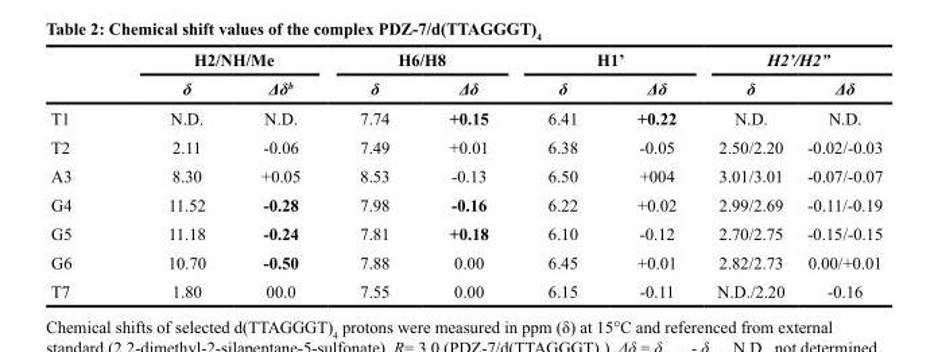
<table><thead><tr><td rowspan="2"></td><td colspan="2">H2/NH/Me</td><td colspan="2">H6/H8</td><td colspan="2">H1’</td><td colspan="2">H2’/H2”</td></tr><tr><td>δ</td><td>Δδ<sup>b</sup></td><td>δ</td><td>Δδ</td><td>δ</td><td>Δδ</td><td>δ</td><td>Δδ</td></tr></thead><tbody><tr><td>T1</td><td>N.D.</td><td>N.D.</td><td>7.74</td><td>+0.15</td><td>6.41</td><td>+0.22</td><td>N.D.</td><td>N.D.</td></tr><tr><td>T2</td><td>2.11</td><td>-0.06</td><td>7.49</td><td>+0.01</td><td>6.38</td><td>-0.05</td><td>2.50/2.20</td><td>-0.02/-0.03</td></tr><tr><td>A3</td><td>8.30</td><td>+0.05</td><td>8.53</td><td>-0.13</td><td>6.50</td><td>+004</td><td>3.01/3.01</td><td>-0.07/-0.07</td></tr><tr><td>G4</td><td>11.52</td><td>-0.28</td><td>7.98</td><td>-0.16</td><td>6.22</td><td>+0.02</td><td>2.99/2.69</td><td>-0.11/-0.19</td></tr><tr><td>G5</td><td>11.18</td><td>-0.24</td><td>7.81</td><td>+0.18</td><td>6.10</td><td>-0.12</td><td>2.70/2.75</td><td>-0.15/-0.15</td></tr><tr><td>G6</td><td>10.70</td><td>-0.50</td><td>7.88</td><td>0.00</td><td>6.45</td><td>+0.01</td><td>2.82/2.73</td><td>0.00/+0.01</td></tr><tr><td>T7</td><td>1.80</td><td>00.0</td><td>7.55</td><td>0.00</td><td>6.15</td><td>-0.11</td><td>N.D./2.20</td><td>-0.16</td></tr></tbody></table>